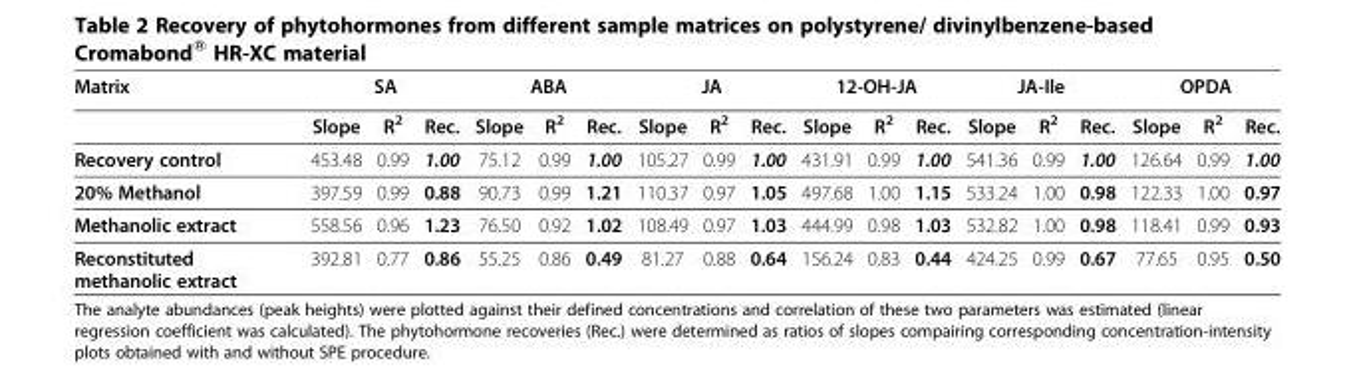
<table><thead><tr><td rowspan="2">Matrix</td><td colspan="3">SA</td><td colspan="3">ABA</td><td colspan="3">JA</td><td colspan="3">12-OH-JA</td><td colspan="3">JA-Ile</td><td colspan="3">OPDA</td></tr><tr><td>Slope</td><td>R<sup>2</sup></td><td>Rec.</td><td>Slope</td><td>R<sup>2</sup></td><td>Rec.</td><td>Slope</td><td>R<sup>2</sup></td><td>Rec.</td><td>Slope</td><td>R<sup>2</sup></td><td>Rec.</td><td>Slope</td><td>R<sup>2</sup></td><td>Rec.</td><td>Slope</td><td>R<sup>2</sup></td><td>Rec.</td></tr></thead><tbody><tr><td>Recovery control</td><td>453.48</td><td>0.99</td><td>1.00</td><td>75.12</td><td>0.99</td><td>1.00</td><td>105.27</td><td>0.99</td><td>1.00</td><td>431.91</td><td>0.99</td><td>1.00</td><td>541.36</td><td>0.99</td><td>1.00</td><td>126.64</td><td>0.99</td><td>1.00</td></tr><tr><td>20% Methanol</td><td>397.59</td><td>0.99</td><td>0.88</td><td>90.73</td><td>0.99</td><td>1.21</td><td>110.37</td><td>0.97</td><td>1.05</td><td>497.68</td><td>1.00</td><td>1.15</td><td>533.24</td><td>1.00</td><td>0.98</td><td>122.33</td><td>1.00</td><td>0.97</td></tr><tr><td>Methanolic extract</td><td>558.56</td><td>0.96</td><td>1.23</td><td>76.50</td><td>0.92</td><td>1.02</td><td>108.49</td><td>0.97</td><td>1.03</td><td>444.99</td><td>0.98</td><td>1.03</td><td>532.82</td><td>1.00</td><td>0.98</td><td>118.41</td><td>0.99</td><td>0.93</td></tr><tr><td>Reconstituted methanolic extract</td><td>392.81</td><td>0.77</td><td>0.86</td><td>55.25</td><td>0.86</td><td>0.49</td><td>81.27</td><td>0.88</td><td>0.64</td><td>156.24</td><td>0.83</td><td>0.44</td><td>424.25</td><td>0.99</td><td>0.67</td><td>77.65</td><td>0.95</td><td>0.50</td></tr></tbody></table>